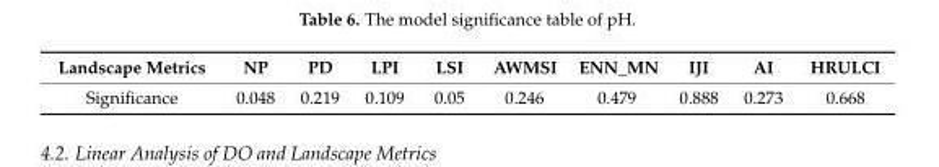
<table><thead><tr><td>Landscape Metrics</td><td>NP</td><td>PD</td><td>LPI</td><td>LSI</td><td>AWMSI</td><td>ENN_MN</td><td>IJI</td><td>AI</td><td>HRULCI</td></tr></thead><tbody><tr><td>Significance</td><td>0.048</td><td>0.219</td><td>0.109</td><td>0.05</td><td>0.246</td><td>0.479</td><td>0.888</td><td>0.273</td><td>0.668</td></tr></tbody></table>